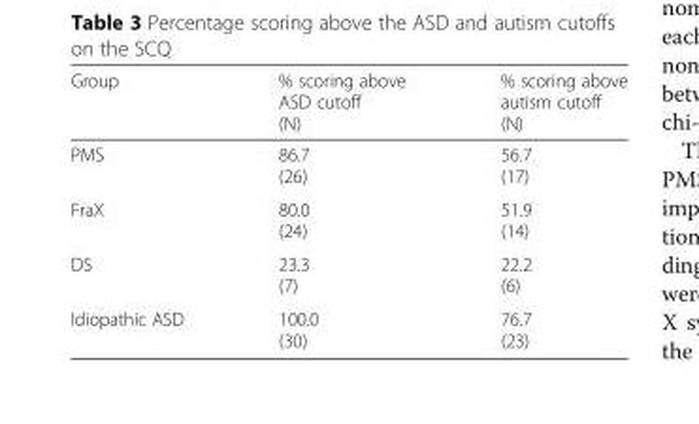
<table><thead><tr><td>Group</td><td>% scoring above ASD cutoff (N)</td><td>% scoring above autism cutoff (N)</td></tr></thead><tbody><tr><td>PMS</td><td>86.7 (26)</td><td>56.7 (17)</td></tr><tr><td>FraX</td><td>80.0 (24)</td><td>51.9 (14)</td></tr><tr><td>DS</td><td>23.3 (7)</td><td>22.2 (6)</td></tr><tr><td>Idiopathic ASD</td><td>100.0 (30)</td><td>76.7 (23)</td></tr></tbody></table>